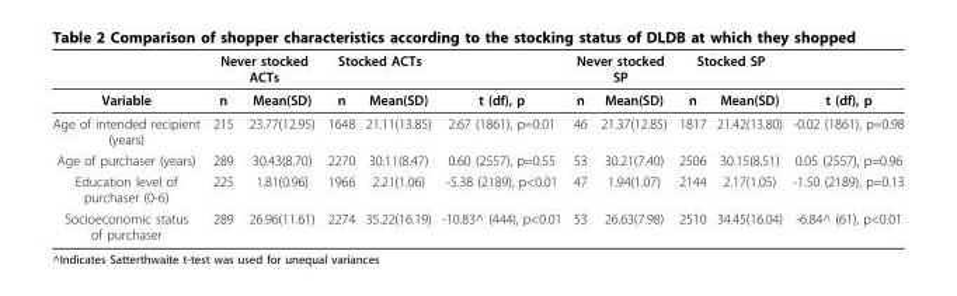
<table><thead><tr><td rowspan="2">Variable</td><td colspan="2">Never stocked ACTs</td><td colspan="2">Stocked ACTs</td><td rowspan="2">t (df), p</td><td colspan="2">Never stocked SP</td><td colspan="2">Stocked SP</td><td rowspan="2">t (df), p</td></tr><tr><td>n</td><td>Mean(SD)</td><td>n</td><td>Mean(SD)</td><td>n</td><td>Mean(SD)</td><td>n</td><td>Mean(SD)</td></tr></thead><tbody><tr><td>Age of intended recipient (years)</td><td>215</td><td>23.77(12.95)</td><td>1648</td><td>21.11(13.85)</td><td>2.67 (1861), p=0.01</td><td>46</td><td>21.37(12.85)</td><td>1817</td><td>21.42(13.80)</td><td>-0.02 (1861), p=0.98</td></tr><tr><td>Age of purchaser (years)</td><td>289</td><td>30.43(8.70)</td><td>2270</td><td>30.11(8.47)</td><td>0.60 (2557), p=0.55</td><td>53</td><td>30.21(7.40)</td><td>2506</td><td>30.15(8.51)</td><td>0.05 (2557), p=0.96</td></tr><tr><td>Education level of purchaser (0-6)</td><td>225</td><td>1.81(0.96)</td><td>1966</td><td>2.21(1.06)</td><td>-5.38 (2189), p&lt;0.01</td><td>47</td><td>1.94(1.07)</td><td>2144</td><td>2.17(1.05)</td><td>-1.50 (2189), p=0.13</td></tr><tr><td>Socioeconomic status of purchaser</td><td>289</td><td>26.96(11.61)</td><td>2274</td><td>35.22(16.19)</td><td>-10.83^ (444), p&lt;0.01</td><td>53</td><td>26.63(7.98)</td><td>2510</td><td>34.45(16.04)</td><td>-6.84^ (61), p&lt;0.01</td></tr></tbody></table>